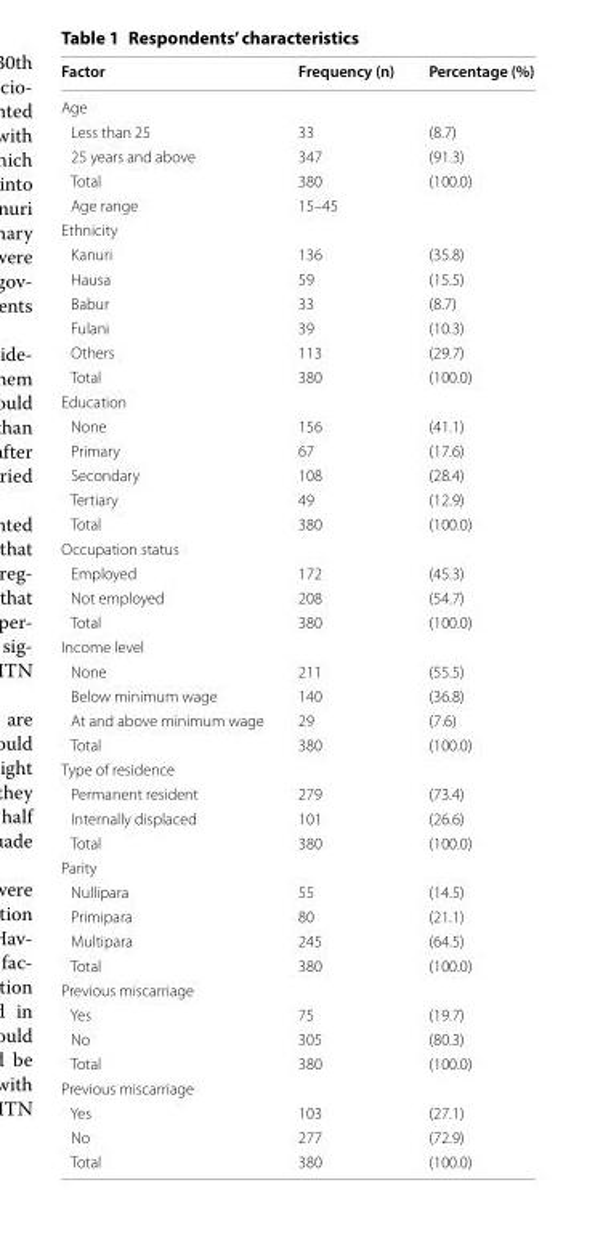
<table><thead><tr><td>Factor</td><td>Frequency (n)</td><td>Percentage (%)</td></tr></thead><tbody><tr><td colspan="3">Age</td></tr><tr><td>Less than 25</td><td>33</td><td>(8.7)</td></tr><tr><td>25 years and above</td><td>347</td><td>(91.3)</td></tr><tr><td>Total</td><td>380</td><td>(100.0)</td></tr><tr><td>Age range</td><td>15–45</td><td></td></tr><tr><td colspan="3">Ethnicity</td></tr><tr><td>Kanuri</td><td>136</td><td>(35.8)</td></tr><tr><td>Hausa</td><td>59</td><td>(15.5)</td></tr><tr><td>Babur</td><td>33</td><td>(8.7)</td></tr><tr><td>Fulani</td><td>39</td><td>(10.3)</td></tr><tr><td>Others</td><td>113</td><td>(29.7)</td></tr><tr><td>Total</td><td>380</td><td>(100.0)</td></tr><tr><td colspan="3">Education</td></tr><tr><td>None</td><td>156</td><td>(41.1)</td></tr><tr><td>Primary</td><td>67</td><td>(17.6)</td></tr><tr><td>Secondary</td><td>108</td><td>(28.4)</td></tr><tr><td>Tertiary</td><td>49</td><td>(12.9)</td></tr><tr><td>Total</td><td>380</td><td>(100.0)</td></tr><tr><td colspan="3">Occupation status</td></tr><tr><td>Employed</td><td>172</td><td>(45.3)</td></tr><tr><td>Not employed</td><td>208</td><td>(54.7)</td></tr><tr><td>Total</td><td>380</td><td>(100.0)</td></tr><tr><td colspan="3">Income level</td></tr><tr><td>None</td><td>211</td><td>(55.5)</td></tr><tr><td>Below minimum wage</td><td>140</td><td>(36.8)</td></tr><tr><td>At and above minimum wage</td><td>29</td><td>(7.6)</td></tr><tr><td>Total</td><td>380</td><td>(100.0)</td></tr><tr><td colspan="3">Type of residence</td></tr><tr><td>Permanent resident</td><td>279</td><td>(73.4)</td></tr><tr><td>Internally displaced</td><td>101</td><td>(26.6)</td></tr><tr><td>Total</td><td>380</td><td>(100.0)</td></tr><tr><td colspan="3">Parity</td></tr><tr><td>Nullipara</td><td>55</td><td>(14.5)</td></tr><tr><td>Primipara</td><td>80</td><td>(21.1)</td></tr><tr><td>Multipara</td><td>245</td><td>(64.5)</td></tr><tr><td>Total</td><td>380</td><td>(100.0)</td></tr><tr><td colspan="3">Previous miscarriage</td></tr><tr><td>Yes</td><td>75</td><td>(19.7)</td></tr><tr><td>No</td><td>305</td><td>(80.3)</td></tr><tr><td>Total</td><td>380</td><td>(100.0)</td></tr><tr><td colspan="3">Previous miscarriage</td></tr><tr><td>Yes</td><td>103</td><td>(27.1)</td></tr><tr><td>No</td><td>277</td><td>(72.9)</td></tr><tr><td>Total</td><td>380</td><td>(100.0)</td></tr></tbody></table>